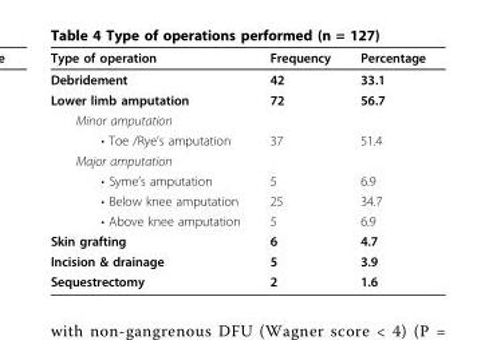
<table><thead><tr><td>Type of operation</td><td>Frequency</td><td>Percentage</td></tr></thead><tbody><tr><td>Debridement</td><td>42</td><td>33.1</td></tr><tr><td>Lower limb amputation</td><td>72</td><td>56.7</td></tr><tr><td colspan="3">Minor amputation</td></tr><tr><td>• Toe /Rye’s amputation</td><td>37</td><td>51.4</td></tr><tr><td colspan="3">Major amputation</td></tr><tr><td>• Syme’s amputation</td><td>5</td><td>6.9</td></tr><tr><td>• Below knee amputation</td><td>25</td><td>34.7</td></tr><tr><td>• Above knee amputation</td><td>5</td><td>6.9</td></tr><tr><td>Skin grafting</td><td>6</td><td>4.7</td></tr><tr><td>Incision &amp; drainage</td><td>5</td><td>3.9</td></tr><tr><td>Sequestrectomy</td><td>2</td><td>1.6</td></tr></tbody></table>